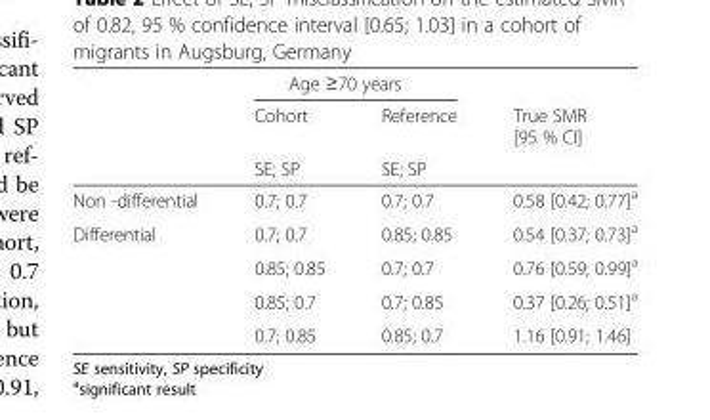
<table><thead><tr><td rowspan="3"></td><td colspan="2">Age ≥70 years</td><td rowspan="3">True SMR [95 % CI]</td></tr><tr><td rowspan="2">Cohort SE; SP</td><td rowspan="2">Reference SE; SP</td></tr><tr></tr></thead><tbody><tr><td>Non -differential</td><td>0.7; 0.7</td><td>0.7; 0.7</td><td>0.58 [0.42; 0.77]<sup>a</sup></td></tr><tr><td rowspan="4">Differential</td><td>0.7; 0.7</td><td>0.85; 0.85</td><td>0.54 [0.37; 0.73]<sup>a</sup></td></tr><tr><td>0.85; 0.85</td><td>0.7; 0.7</td><td>0.76 [0.59; 0.99]<sup>a</sup></td></tr><tr><td>0.85; 0.7</td><td>0.7; 0.85</td><td>0.37 [0.26; 0.51]<sup>a</sup></td></tr><tr><td>0.7; 0.85</td><td>0.85; 0.7</td><td>1.16 [0.91; 1.46]</td></tr></tbody></table>